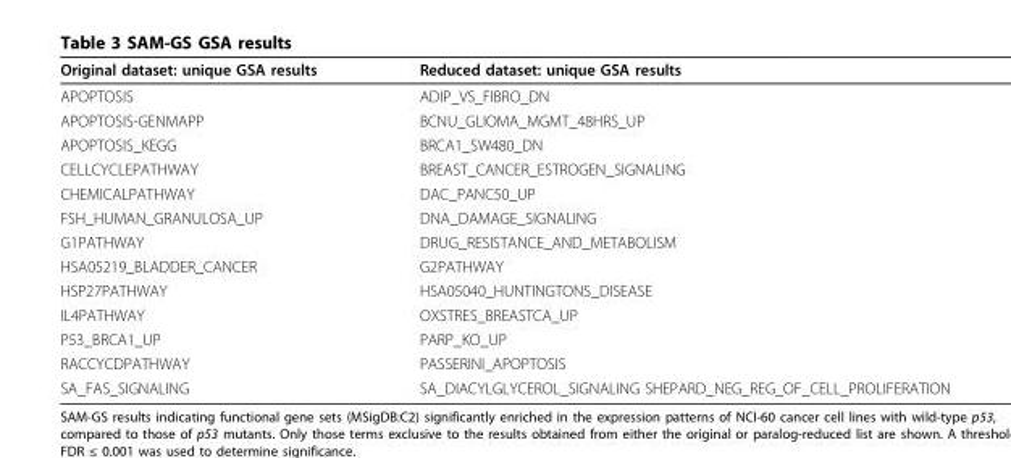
<table><thead><tr><td>Original dataset: unique GSA results</td><td>Reduced dataset: unique GSA results</td></tr></thead><tbody><tr><td>APOPTOSIS</td><td>ADIP_VS_FIBRO_DN</td></tr><tr><td>APOPTOSIS-GENMAPP</td><td>BCNU_GLIOMA_MGMT_48HRS_UP</td></tr><tr><td>APOPTOSIS_KEGG</td><td>BRCA1_SW480_DN</td></tr><tr><td>CELLCYCLEPATHWAY</td><td>BREAST_CANCER_ESTROGEN_SIGNALING</td></tr><tr><td>CHEMICALPATHWAY</td><td>DAC_PANC50_UP</td></tr><tr><td>FSH_HUMAN_GRANULOSA_UP</td><td>DNA_DAMAGE_SIGNALING</td></tr><tr><td>G1PATHWAY</td><td>DRUG_RESISTANCE_AND_METABOLISM</td></tr><tr><td>HSA05219_BLADDER_CANCER</td><td>G2PATHWAY</td></tr><tr><td>HSP27PATHWAY</td><td>HSA05040_HUNTINGTONS_DISEASE</td></tr><tr><td>IL4PATHWAY</td><td>OXSTRES_BREASTCA_UP</td></tr><tr><td>P53_BRCA1_UP</td><td>PARP_KO_UP</td></tr><tr><td>RACCYCDPATHWAY</td><td>PASSERINI_APOPTOSIS</td></tr><tr><td>SA_FAS_SIGNALING</td><td>SA_DIACYLGLYCEROL_SIGNALING SHEPARD_NEG_REG_OF_CELL_PROLIFERATION</td></tr></tbody></table>